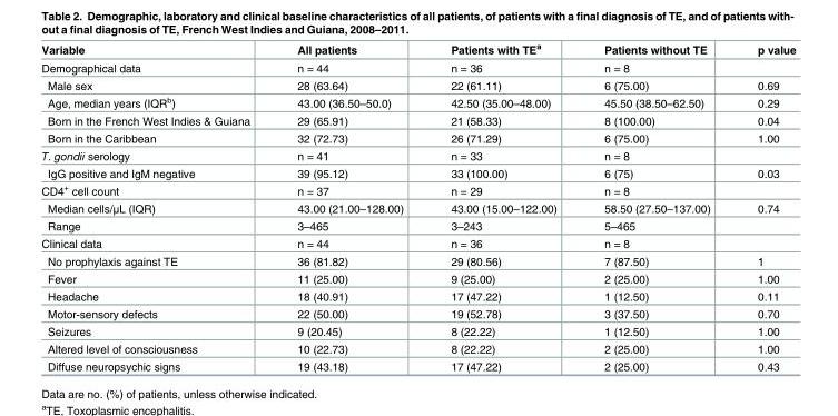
<table><thead><tr><td>Variable</td><td>All patients</td><td>Patients with TE<sup>a</sup></td><td>Patients without TE</td><td>p value</td></tr></thead><tbody><tr><td>Demographical data</td><td>n = 44</td><td>n = 36</td><td>n = 8</td><td></td></tr><tr><td>Male sex</td><td>28 (63.64)</td><td>22 (61.11)</td><td>6 (75.00)</td><td>0.69</td></tr><tr><td>Age, median years (IQR<sup>b</sup>)</td><td>43.00 (36.50–50.0)</td><td>42.50 (35.00–48.00)</td><td>45.50 (38.50–62.50)</td><td>0.29</td></tr><tr><td>Born in the French West Indies &amp; Guiana</td><td>29 (65.91)</td><td>21 (58.33)</td><td>8 (100.00)</td><td>0.04</td></tr><tr><td>Born in the Caribbean</td><td>32 (72.73)</td><td>26 (71.29)</td><td>6 (75.00)</td><td>1.00</td></tr><tr><td>T. gondii serology</td><td>n = 41</td><td>n = 33</td><td>n = 8</td><td></td></tr><tr><td>IgG positive and IgM negative</td><td>39 (95.12)</td><td>33 (100.00)</td><td>6 (75)</td><td>0.03</td></tr><tr><td>CD4<sup>+</sup> cell count</td><td>n = 37</td><td>n = 29</td><td>n = 8</td><td></td></tr><tr><td>Median cells/μL (IQR)</td><td>43.00 (21.00–128.00)</td><td>43.00 (15.00–122.00)</td><td>58.50 (27.50–137.00)</td><td>0.74</td></tr><tr><td>Range</td><td>3–465</td><td>3–243</td><td>5–465</td><td></td></tr><tr><td>Clinical data</td><td>n = 44</td><td>n = 36</td><td>n = 8</td><td></td></tr><tr><td>No prophylaxis against TE</td><td>36 (81.82)</td><td>29 (80.56)</td><td>7 (87.50)</td><td>1</td></tr><tr><td>Fever</td><td>11 (25.00)</td><td>9 (25.00)</td><td>2 (25.00)</td><td>1.00</td></tr><tr><td>Headache</td><td>18 (40.91)</td><td>17 (47.22)</td><td>1 (12.50)</td><td>0.11</td></tr><tr><td>Motor-sensory defects</td><td>22 (50.00)</td><td>19 (52.78)</td><td>3 (37.50)</td><td>0.70</td></tr><tr><td>Seizures</td><td>9 (20.45)</td><td>8 (22.22)</td><td>1 (12.50)</td><td>1.00</td></tr><tr><td>Altered level of consciousness</td><td>10 (22.73)</td><td>8 (22.22)</td><td>2 (25.00)</td><td>1.00</td></tr><tr><td>Diffuse neuropsychic signs</td><td>19 (43.18)</td><td>17 (47.22)</td><td>2 (25.00)</td><td>0.43</td></tr></tbody></table>